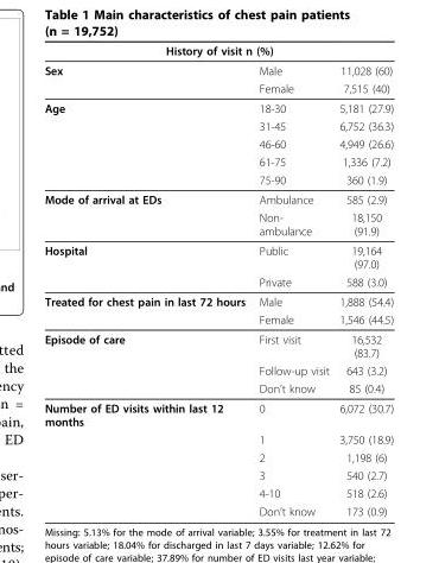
<table><thead><tr><td colspan="3">History of visit n (%)</td></tr><tr><td>Sex</td><td>Male</td><td>11,028 (60)</td></tr></thead><tbody><tr><td></td><td>Female</td><td>7,515 (40)</td></tr><tr><td rowspan="5">Age</td><td>18-30</td><td>5,181 (27.9)</td></tr><tr><td>31-45</td><td>6,752 (36.3)</td></tr><tr><td>46-60</td><td>4,949 (26.6)</td></tr><tr><td>61-75</td><td>1,336 (7.2)</td></tr><tr><td>75-90</td><td>360 (1.9)</td></tr><tr><td rowspan="2">Mode of arrival at EDs</td><td>Ambulance</td><td>585 (2.9)</td></tr><tr><td>Non- ambulance</td><td>18,150 (91.9)</td></tr><tr><td rowspan="2">Hospital</td><td>Public</td><td>19,164 (97.0)</td></tr><tr><td>Private</td><td>588 (3.0)</td></tr><tr><td rowspan="2">Treated for chest pain in last 72 hours</td><td>Male</td><td>1,888 (54.4)</td></tr><tr><td>Female</td><td>1,546 (44.5)</td></tr><tr><td rowspan="3">Episode of care</td><td>First visit</td><td>16,532 (83.7)</td></tr><tr><td>Follow-up visit</td><td>643 (3.2)</td></tr><tr><td>Don’t know</td><td>85 (0.4)</td></tr><tr><td rowspan="6">Number of ED visits within last 12 months</td><td>0</td><td>6,072 (30.7)</td></tr><tr><td>1</td><td>3,750 (18.9)</td></tr><tr><td>2</td><td>1,198 (6)</td></tr><tr><td>3</td><td>540 (2.7)</td></tr><tr><td>4-10</td><td>518 (2.6)</td></tr><tr><td>Don’t know</td><td>173 (0.9)</td></tr></tbody></table>